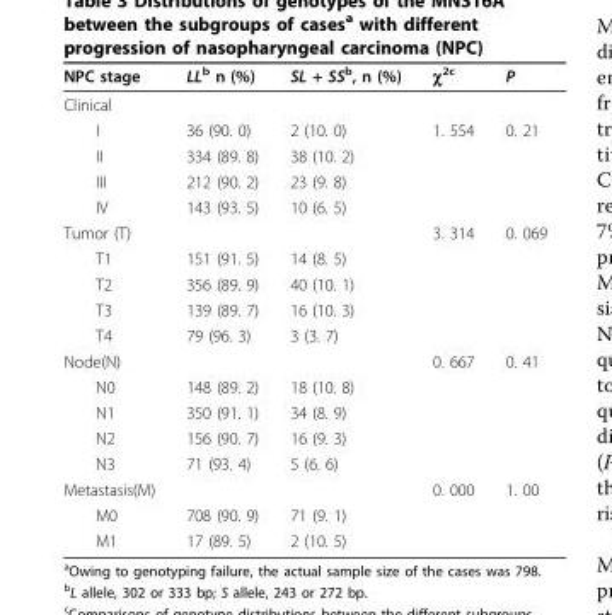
<table><thead><tr><td>NPC stage</td><td>LL<sup>b</sup> n (%)</td><td>SL + SS<sup>b</sup>, n (%)</td><td>χ<sup>2c</sup></td><td>P</td></tr></thead><tbody><tr><td colspan="5">Clinical</td></tr><tr><td>I</td><td>36 (90. 0)</td><td>2 (10. 0)</td><td>1. 554</td><td>0. 21</td></tr><tr><td>II</td><td>334 (89. 8)</td><td>38 (10. 2)</td><td></td><td></td></tr><tr><td>III</td><td>212 (90. 2)</td><td>23 (9. 8)</td><td></td><td></td></tr><tr><td>IV</td><td>143 (93. 5)</td><td>10 (6. 5)</td><td></td><td></td></tr><tr><td>Tumor (T)</td><td></td><td></td><td>3. 314</td><td>0. 069</td></tr><tr><td>T1</td><td>151 (91. 5)</td><td>14 (8. 5)</td><td></td><td></td></tr><tr><td>T2</td><td>356 (89. 9)</td><td>40 (10. 1)</td><td></td><td></td></tr><tr><td>T3</td><td>139 (89. 7)</td><td>16 (10. 3)</td><td></td><td></td></tr><tr><td>T4</td><td>79 (96. 3)</td><td>3 (3. 7)</td><td></td><td></td></tr><tr><td>Node(N)</td><td></td><td></td><td>0. 667</td><td>0. 41</td></tr><tr><td>N0</td><td>148 (89. 2)</td><td>18 (10. 8)</td><td></td><td></td></tr><tr><td>N1</td><td>350 (91. 1)</td><td>34 (8. 9)</td><td></td><td></td></tr><tr><td>N2</td><td>156 (90. 7)</td><td>16 (9. 3)</td><td></td><td></td></tr><tr><td>N3</td><td>71 (93. 4)</td><td>5 (6. 6)</td><td></td><td></td></tr><tr><td>Metastasis(M)</td><td></td><td></td><td>0. 000</td><td>1. 00</td></tr><tr><td>M0</td><td>708 (90. 9)</td><td>71 (9. 1)</td><td></td><td></td></tr><tr><td>M1</td><td>17 (89. 5)</td><td>2 (10. 5)</td><td></td><td></td></tr></tbody></table>